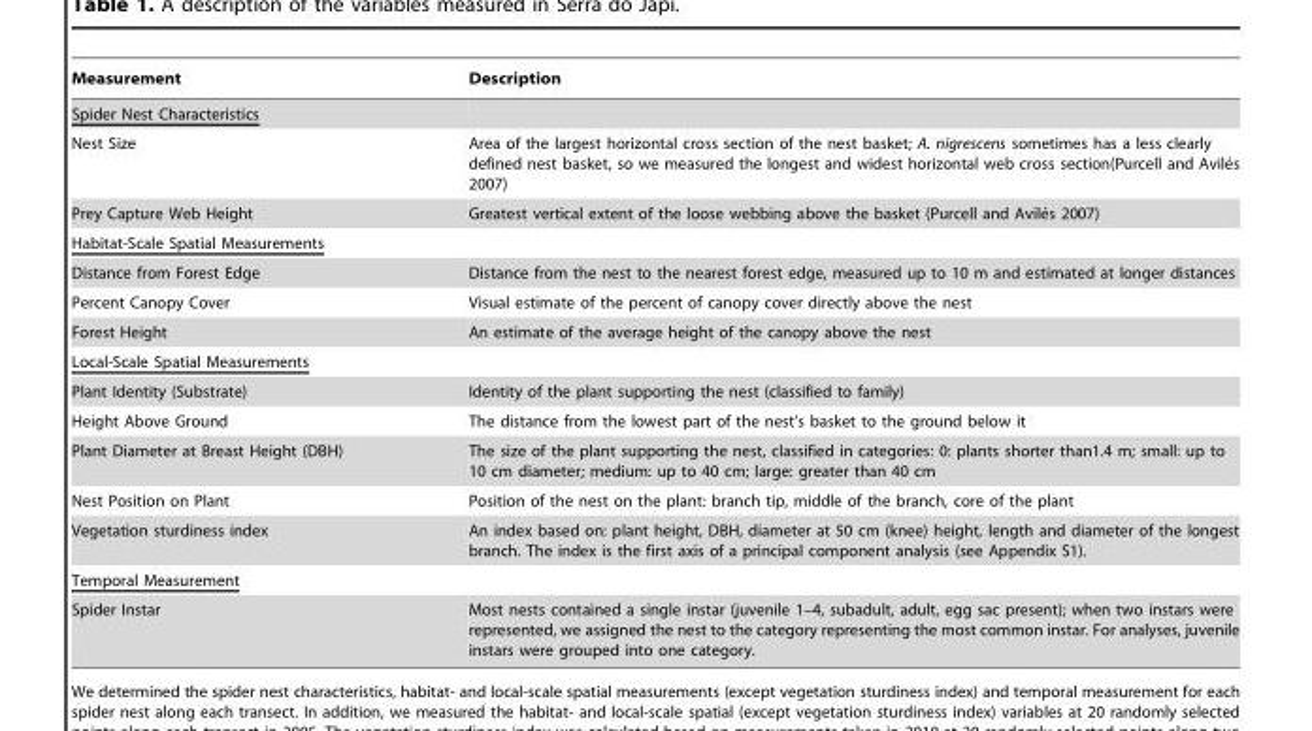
<table><thead><tr><td>Measurement</td><td>Description</td></tr></thead><tbody><tr><td colspan="2">Spider Nest Characteristics</td></tr><tr><td>Nest Size</td><td>Area of the largest horizontal cross section of the nest basket; A. nigrescens sometimes has a less clearly defined nest basket, so we measured the longest and widest horizontal web cross section(Purcell and Avile´s 2007)</td></tr><tr><td>Prey Capture Web Height</td><td>Greatest vertical extent of the loose webbing above the basket (Purcell and Avile´s 2007)</td></tr><tr><td colspan="2">Habitat-Scale Spatial Measurements</td></tr><tr><td>Distance from Forest Edge</td><td>Distance from the nest to the nearest forest edge, measured up to 10 m and estimated at longer distances</td></tr><tr><td>Percent Canopy Cover</td><td>Visual estimate of the percent of canopy cover directly above the nest</td></tr><tr><td>Forest Height</td><td>An estimate of the average height of the canopy above the nest</td></tr><tr><td colspan="2">Local-Scale Spatial Measurements</td></tr><tr><td>Plant Identity (Substrate)</td><td>Identity of the plant supporting the nest (classified to family)</td></tr><tr><td>Height Above Ground</td><td>The distance from the lowest part of the nest’s basket to the ground below it</td></tr><tr><td>Plant Diameter at Breast Height (DBH)</td><td>The size of the plant supporting the nest, classified in categories: 0: plants shorter than1.4 m; small: up to 10 cm diameter; medium: up to 40 cm; large: greater than 40 cm</td></tr><tr><td>Nest Position on Plant</td><td>Position of the nest on the plant: branch tip, middle of the branch, core of the plant</td></tr><tr><td>Vegetation sturdiness index</td><td>An index based on: plant height, DBH, diameter at 50 cm (knee) height, length and diameter of the longest branch. The index is the first axis of a principal component analysis (see Appendix S1).</td></tr><tr><td colspan="2">Temporal Measurement</td></tr><tr><td>Spider Instar</td><td>Most nests contained a single instar (juvenile 1–4, subadult, adult, egg sac present); when two instars were represented, we assigned the nest to the category representing the most common instar. For analyses, juvenile instars were grouped into one category.</td></tr></tbody></table>